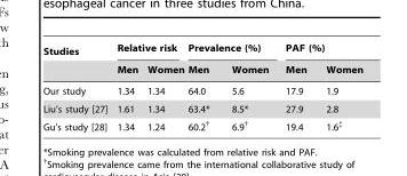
<table><thead><tr><td rowspan="2">Studies</td><td colspan="2">Relative risk</td><td colspan="2">Prevalence (%)</td><td colspan="2">PAF (%)</td></tr><tr><td>Men</td><td>Women</td><td>Men</td><td>Women</td><td>Men</td><td>Women</td></tr></thead><tbody><tr><td>Our study</td><td>1.34</td><td>1.34</td><td>64.0</td><td>5.6</td><td>17.9</td><td>1.9</td></tr><tr><td>Liu’s study [27]</td><td>1.61</td><td>1.34</td><td>63.4*</td><td>8.5*</td><td>27.9</td><td>2.8</td></tr><tr><td>Gu’s study [28]</td><td>1.34</td><td>1.24</td><td>60.2†</td><td>6.9†</td><td>19.4</td><td>1.6‡</td></tr></tbody></table>